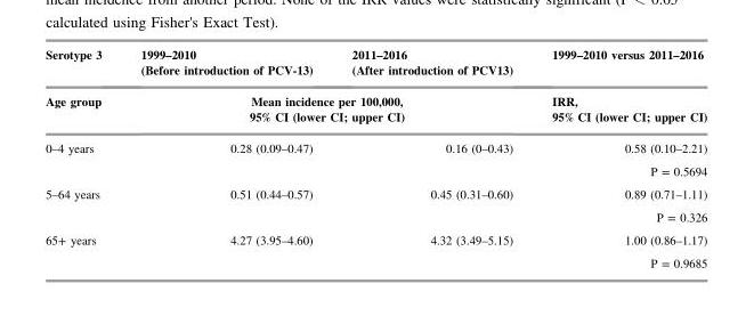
<table><thead><tr><td rowspan="2">Serotype 3 Age group</td><td>1999–2010 (Before introduction of PCV-13)</td><td>2011–2016 (After introduction of PCV13)</td><td rowspan="2">1999–2010 versus 2011–2016 IRR, 95% CI (lower CI; upper CI)</td></tr><tr><td colspan="2">Mean incidence per 100,000, 95% CI (lower CI; upper CI)</td></tr></thead><tbody><tr><td rowspan="2">0–4 years</td><td rowspan="2">0.28 (0.09–0.47)</td><td rowspan="2">0.16 (0–0.43)</td><td>0.58 (0.10–2.21)</td></tr><tr><td>P = 0.5694</td></tr><tr><td rowspan="2">5–64 years</td><td rowspan="2">0.51 (0.44–0.57)</td><td rowspan="2">0.45 (0.31–0.60)</td><td>0.89 (0.71–1.11)</td></tr><tr><td>P = 0.326</td></tr><tr><td rowspan="2">65+ years</td><td rowspan="2">4.27 (3.95–4.60)</td><td rowspan="2">4.32 (3.49–5.15)</td><td>1.00 (0.86–1.17)</td></tr><tr><td>P = 0.9685</td></tr></tbody></table>